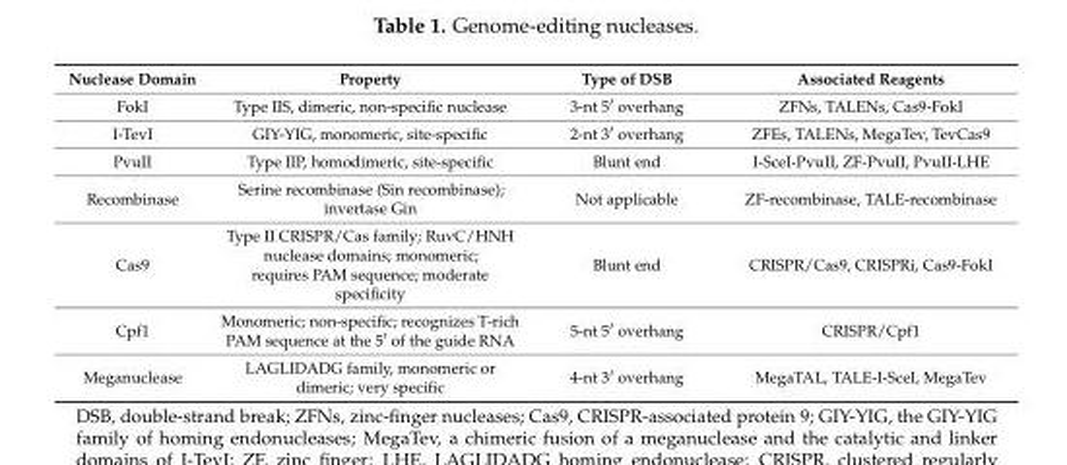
<table><thead><tr><td>Nuclease Domain</td><td>Property</td><td>Type of DSB</td><td>Associated Reagents</td></tr></thead><tbody><tr><td>FokI</td><td>Type IIS, dimeric, non-specific nuclease</td><td>3-nt 5′ overhang</td><td>ZFNs, TALENs, Cas9-FokI</td></tr><tr><td>I-TevI</td><td>GIY-YIG, monomeric, site-specific</td><td>2-nt 3′ overhang</td><td>ZFEs, TALENs, MegaTev, TevCas9</td></tr><tr><td>PvuII</td><td>Type IIP, homodimeric, site-specific</td><td>Blunt end</td><td>I-SceI-PvuII, ZF-PvuII, PvuII-LHE</td></tr><tr><td>Recombinase</td><td>Serine recombinase (Sin recombinase); invertase Gin</td><td>Not applicable</td><td>ZF-recombinase, TALE-recombinase</td></tr><tr><td>Cas9</td><td>Type II CRISPR/Cas family; RuvC/HNH nuclease domains; monomeric; requires PAM sequence; moderate specificity</td><td>Blunt end</td><td>CRISPR/Cas9, CRISPRi, Cas9-FokI</td></tr><tr><td>Cpf1</td><td>Monomeric; non-specific; recognizes T-rich PAM sequence at the 5′ of the guide RNA</td><td>5-nt 5′ overhang</td><td>CRISPR/Cpf1</td></tr><tr><td>Meganuclease</td><td>LAGLIDADG family, monomeric or dimeric; very specific</td><td>4-nt 3′ overhang</td><td>MegaTAL, TALE-I-SceI, MegaTev</td></tr></tbody></table>